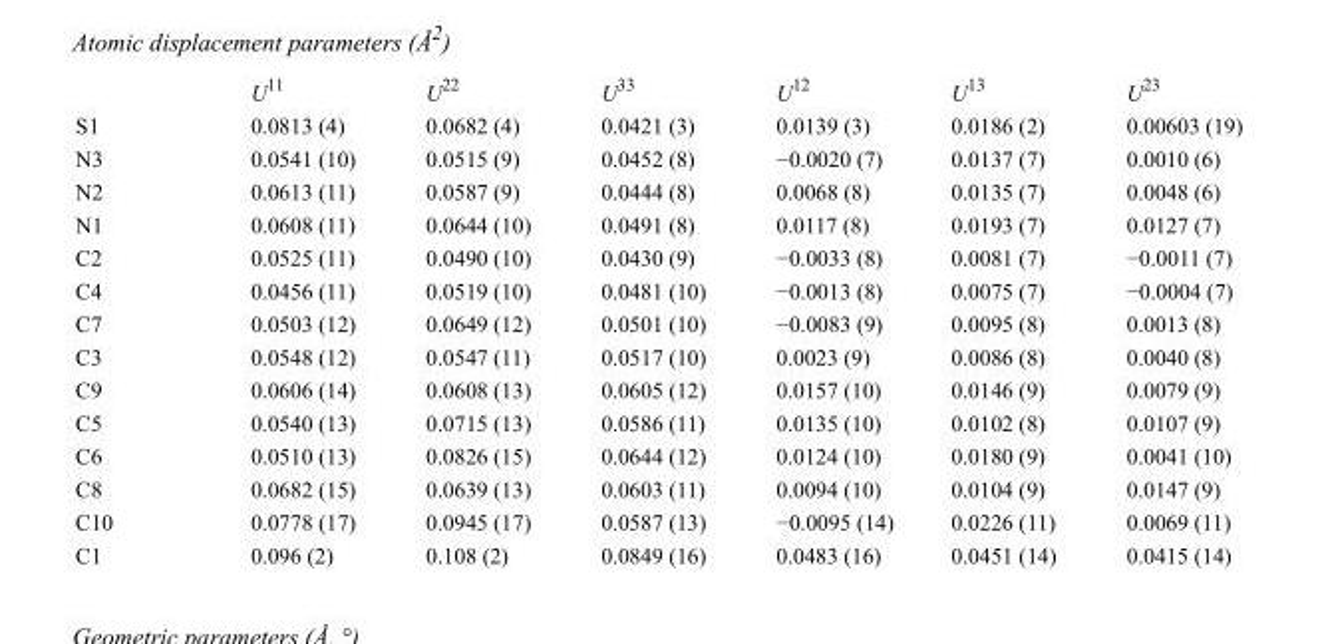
<table><thead><tr><td></td><td>U<sup>11</sup></td><td>U<sup>22</sup></td><td>U<sup>33</sup></td><td>U<sup>12</sup></td><td>U<sup>13</sup></td><td>U<sup>23</sup></td></tr></thead><tbody><tr><td>S1</td><td>0.0813 (4)</td><td>0.0682 (4)</td><td>0.0421 (3)</td><td>0.0139 (3)</td><td>0.0186 (2)</td><td>0.00603 (19)</td></tr><tr><td>N3</td><td>0.0541 (10)</td><td>0.0515 (9)</td><td>0.0452 (8)</td><td>−0.0020 (7)</td><td>0.0137 (7)</td><td>0.0010 (6)</td></tr><tr><td>N2</td><td>0.0613 (11)</td><td>0.0587 (9)</td><td>0.0444 (8)</td><td>0.0068 (8)</td><td>0.0135 (7)</td><td>0.0048 (6)</td></tr><tr><td>N1</td><td>0.0608 (11)</td><td>0.0644 (10)</td><td>0.0491 (8)</td><td>0.0117 (8)</td><td>0.0193 (7)</td><td>0.0127 (7)</td></tr><tr><td>C2</td><td>0.0525 (11)</td><td>0.0490 (10)</td><td>0.0430 (9)</td><td>−0.0033 (8)</td><td>0.0081 (7)</td><td>−0.0011 (7)</td></tr><tr><td>C4</td><td>0.0456 (11)</td><td>0.0519 (10)</td><td>0.0481 (10)</td><td>−0.0013 (8)</td><td>0.0075 (7)</td><td>−0.0004 (7)</td></tr><tr><td>C7</td><td>0.0503 (12)</td><td>0.0649 (12)</td><td>0.0501 (10)</td><td>−0.0083 (9)</td><td>0.0095 (8)</td><td>0.0013 (8)</td></tr><tr><td>C3</td><td>0.0548 (12)</td><td>0.0547 (11)</td><td>0.0517 (10)</td><td>0.0023 (9)</td><td>0.0086 (8)</td><td>0.0040 (8)</td></tr><tr><td>C9</td><td>0.0606 (14)</td><td>0.0608 (13)</td><td>0.0605 (12)</td><td>0.0157 (10)</td><td>0.0146 (9)</td><td>0.0079 (9)</td></tr><tr><td>C5</td><td>0.0540 (13)</td><td>0.0715 (13)</td><td>0.0586 (11)</td><td>0.0135 (10)</td><td>0.0102 (8)</td><td>0.0107 (9)</td></tr><tr><td>C6</td><td>0.0510 (13)</td><td>0.0826 (15)</td><td>0.0644 (12)</td><td>0.0124 (10)</td><td>0.0180 (9)</td><td>0.0041 (10)</td></tr><tr><td>C8</td><td>0.0682 (15)</td><td>0.0639 (13)</td><td>0.0603 (11)</td><td>0.0094 (10)</td><td>0.0104 (9)</td><td>0.0147 (9)</td></tr><tr><td>C10</td><td>0.0778 (17)</td><td>0.0945 (17)</td><td>0.0587 (13)</td><td>−0.0095 (14)</td><td>0.0226 (11)</td><td>0.0069 (11)</td></tr><tr><td>C1</td><td>0.096 (2)</td><td>0.108 (2)</td><td>0.0849 (16)</td><td>0.0483 (16)</td><td>0.0451 (14)</td><td>0.0415 (14)</td></tr></tbody></table>